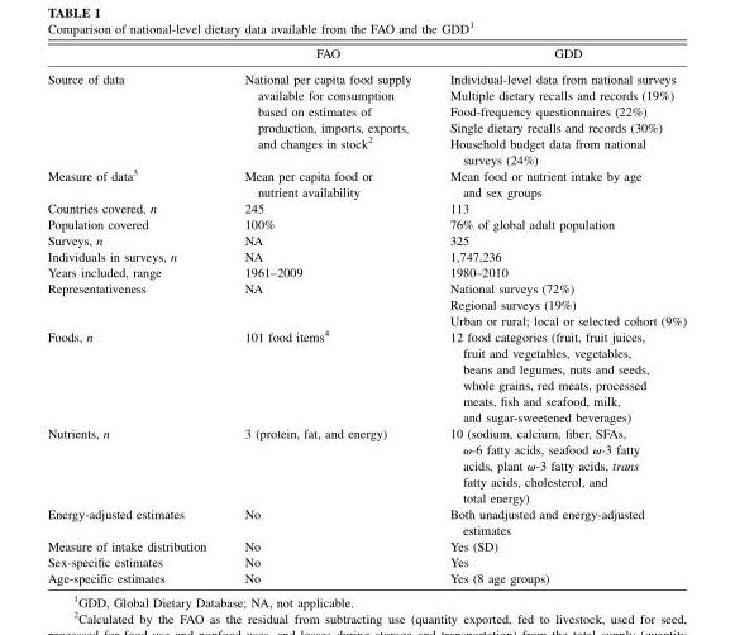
<table><thead><tr><td></td><td>FAO</td><td>GDD</td></tr></thead><tbody><tr><td rowspan="5">Source of data</td><td rowspan="5">National per capita food supply available for consumption based on estimates of production, imports, exports, and changes in stock<sup>2</sup></td><td>Individual-level data from national surveys</td></tr><tr><td>Multiple dietary recalls and records (19%)</td></tr><tr><td>Food-frequency questionnaires (22%)</td></tr><tr><td>Single dietary recalls and records (30%)</td></tr><tr><td>Household budget data from national surveys (24%)</td></tr><tr><td>Measure of data<sup>3</sup></td><td>Mean per capita food or nutrient availability</td><td>Mean food or nutrient intake by age and sex groups</td></tr><tr><td>Countries covered, n</td><td>245</td><td>113</td></tr><tr><td>Population covered</td><td>100%</td><td>76% of global adult population</td></tr><tr><td>Surveys, n</td><td>NA</td><td>325</td></tr><tr><td>Individuals in surveys, n</td><td>NA</td><td>1,747,236</td></tr><tr><td>Years included, range</td><td>1961–2009</td><td>1980–2010</td></tr><tr><td rowspan="3">Representativeness</td><td rowspan="3">NA</td><td>National surveys (72%)</td></tr><tr><td>Regional surveys (19%)</td></tr><tr><td>Urban or rural; local or selected cohort (9%)</td></tr><tr><td>Foods, n</td><td>101 food items<sup>4</sup></td><td>12 food categories (fruit, fruit juices, fruit and vegetables, vegetables, beans and legumes, nuts and seeds, whole grains, red meats, processed meats, fish and seafood, milk, and sugar-sweetened beverages)</td></tr><tr><td>Nutrients, n</td><td>3 (protein, fat, and energy)</td><td>10 (sodium, calcium, fiber, SFAs, ω-6 fatty acids, seafood ω-3 fatty acids, plant ω-3 fatty acids, trans fatty acids, cholesterol, and total energy)</td></tr><tr><td>Energy-adjusted estimates</td><td>No</td><td>Both unadjusted and energy-adjusted estimates</td></tr><tr><td>Measure of intake distribution</td><td>No</td><td>Yes (SD)</td></tr><tr><td>Sex-specific estimates</td><td>No</td><td>Yes</td></tr><tr><td>Age-specific estimates</td><td>No</td><td>Yes (8 age groups)</td></tr></tbody></table>